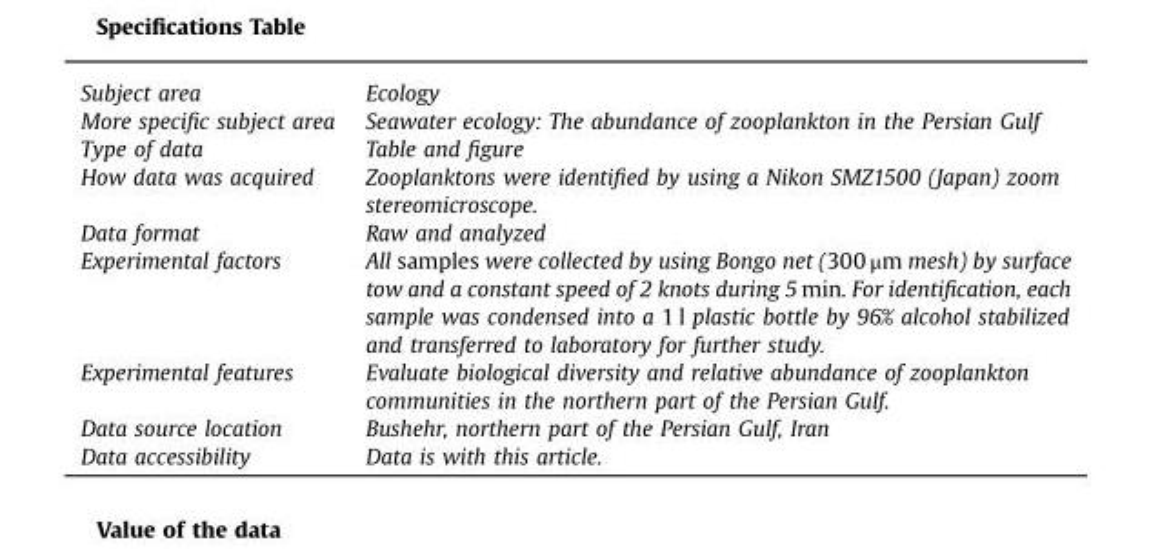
<table><tbody><tr><td>Subject area</td><td>Ecology</td></tr><tr><td>More specific subject area</td><td>Seawater ecology: The abundance of zooplankton in the Persian Gulf</td></tr><tr><td>Type of data</td><td>Table and figure</td></tr><tr><td>How data was acquired</td><td>Zooplanktons were identified by using a Nikon SMZ1500 (Japan) zoom stereomicroscope.</td></tr><tr><td>Data format</td><td>Raw and analyzed</td></tr><tr><td>Experimental factors</td><td>All samples were collected by using Bongo net (300 μm mesh) by surface tow and a constant speed of 2 knots during 5 min. For identification, each sample was condensed into a 1 l plastic bottle by 96% alcohol stabilized and transferred to laboratory for further study.</td></tr><tr><td>Experimental features</td><td>Evaluate biological diversity and relative abundance of zooplankton communities in the northern part of the Persian Gulf.</td></tr><tr><td>Data source location</td><td>Bushehr, northern part of the Persian Gulf, Iran</td></tr><tr><td>Data accessibility</td><td>Data is with this article.</td></tr></tbody></table>